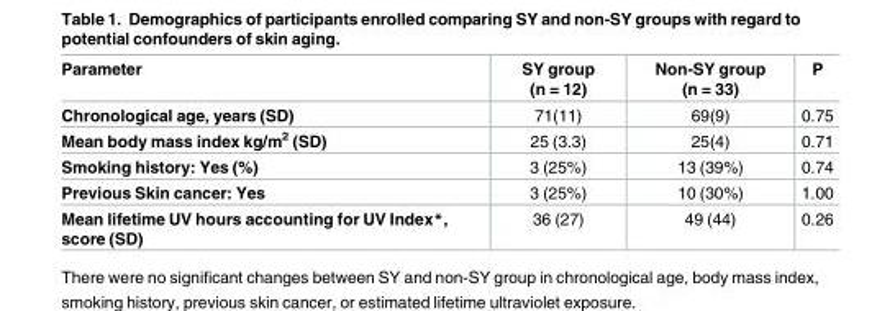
<table><thead><tr><td>Parameter</td><td>SY group (n = 12)</td><td>Non-SY group (n = 33)</td><td>P</td></tr></thead><tbody><tr><td>Chronological age, years (SD)</td><td>71(11)</td><td>69(9)</td><td>0.75</td></tr><tr><td>Mean body mass index kg/m<sup>2</sup> (SD)</td><td>25 (3.3)</td><td>25(4)</td><td>0.71</td></tr><tr><td>Smoking history: Yes (%)</td><td>3 (25%)</td><td>13 (39%)</td><td>0.74</td></tr><tr><td>Previous Skin cancer: Yes</td><td>3 (25%)</td><td>10 (30%)</td><td>1.00</td></tr><tr><td>Mean lifetime UV hours accounting for UV Index*, score (SD)</td><td>36 (27)</td><td>49 (44)</td><td>0.26</td></tr></tbody></table>